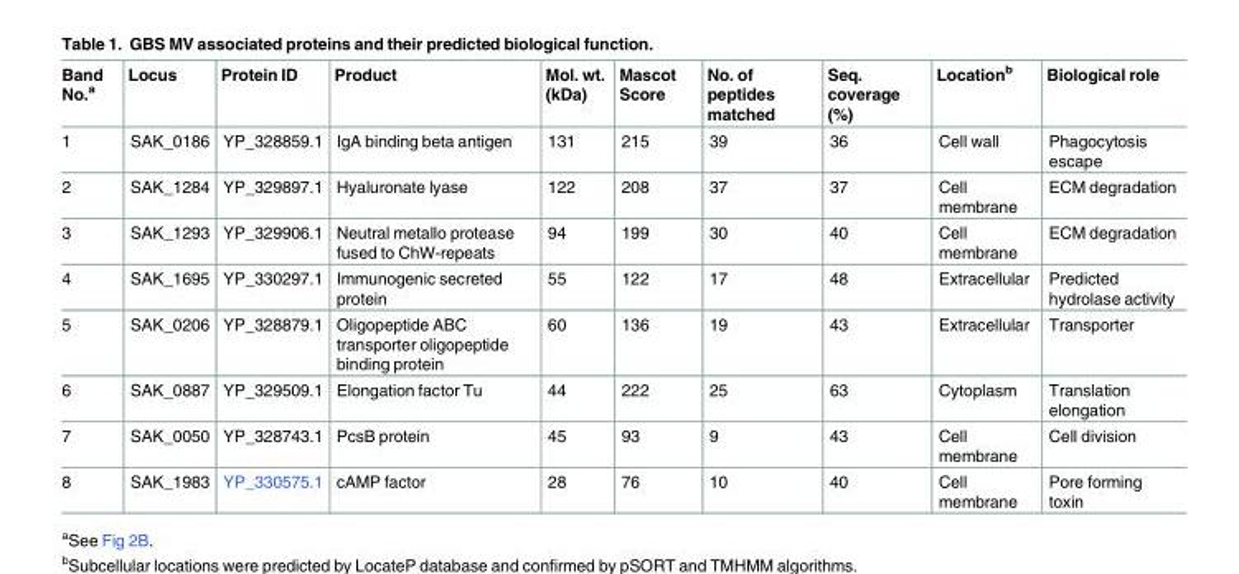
<table><thead><tr><td>Band No.<sup>a</sup></td><td>Locus</td><td>Protein ID</td><td>Product</td><td>Mol. wt. (kDa)</td><td>Mascot Score</td><td>No. of peptides matched</td><td>Seq. coverage (%)</td><td>Location<sup>b</sup></td><td>Biological role</td></tr></thead><tbody><tr><td>1</td><td>SAK_0186</td><td>YP_328859.1</td><td>IgA binding beta antigen</td><td>131</td><td>215</td><td>39</td><td>36</td><td>Cell wall</td><td>Phagocytosis escape</td></tr><tr><td>2</td><td>SAK_1284</td><td>YP_329897.1</td><td>Hyaluronate lyase</td><td>122</td><td>208</td><td>37</td><td>37</td><td>Cell membrane</td><td>ECM degradation</td></tr><tr><td>3</td><td>SAK_1293</td><td>YP_329906.1</td><td>Neutral metallo protease fused to ChW-repeats</td><td>94</td><td>199</td><td>30</td><td>40</td><td>Cell membrane</td><td>ECM degradation</td></tr><tr><td>4</td><td>SAK_1695</td><td>YP_330297.1</td><td>Immunogenic secreted protein</td><td>55</td><td>122</td><td>17</td><td>48</td><td>Extracellular</td><td>Predicted hydrolase activity</td></tr><tr><td>5</td><td>SAK_0206</td><td>YP_328879.1</td><td>Oligopeptide ABC transporter oligopeptide binding protein</td><td>60</td><td>136</td><td>19</td><td>43</td><td>Extracellular</td><td>Transporter</td></tr><tr><td>6</td><td>SAK_0887</td><td>YP_329509.1</td><td>Elongation factor Tu</td><td>44</td><td>222</td><td>25</td><td>63</td><td>Cytoplasm</td><td>Translation elongation</td></tr><tr><td>7</td><td>SAK_0050</td><td>YP_328743.1</td><td>PcsB protein</td><td>45</td><td>93</td><td>9</td><td>43</td><td>Cell membrane</td><td>Cell division</td></tr><tr><td>8</td><td>SAK_1983</td><td>YP_330575.1</td><td>cAMP factor</td><td>28</td><td>76</td><td>10</td><td>40</td><td>Cell membrane</td><td>Pore forming toxin</td></tr></tbody></table>